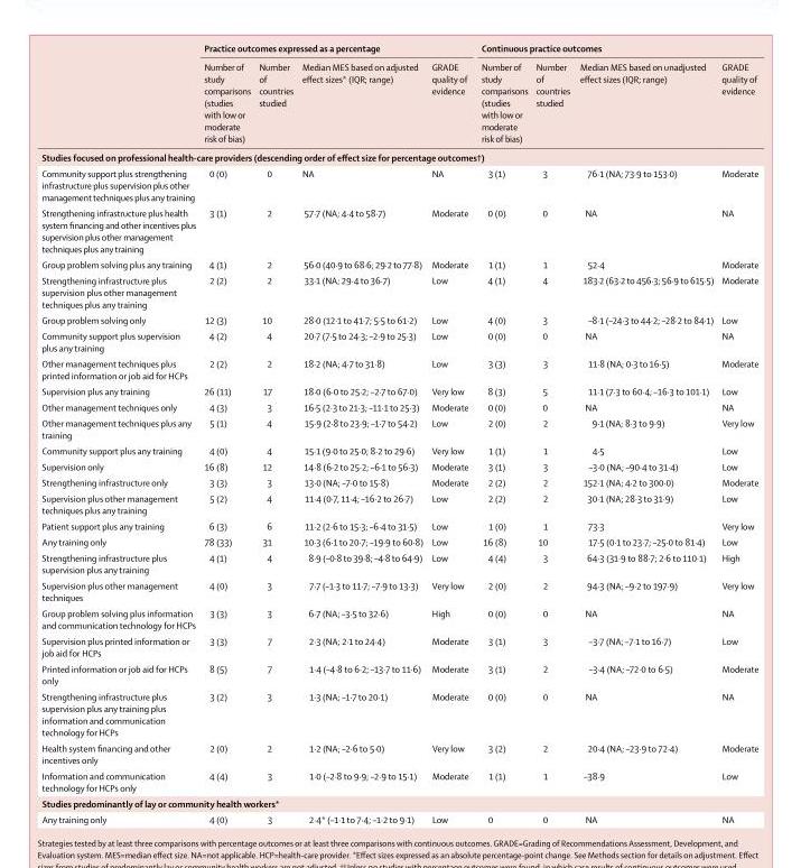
<table><thead><tr><td rowspan="2"></td><td colspan="4">Practice outcomes expressed as a percentage</td><td colspan="4">Continuous practice outcomes</td></tr><tr><td>Number of study comparisons (studies with low or moderate risk of bias)</td><td>Number of countries studied</td><td>Median MES based on adjusted effect sizes* (IQR; range)</td><td>GRADE quality of evidence</td><td>Number of study comparisons (studies with low or moderate risk of bias)</td><td>Number of countries studied</td><td>Median MES based on unadjusted effect sizes (IQR; range)</td><td>GRADE quality of evidence</td></tr></thead><tbody><tr><td colspan="9">Studies focused on professional health-care providers (descending order of effect size for percentage outcomes†)</td></tr><tr><td>Community support plus strengthening infrastructure plus supervision plus other management techniques plus any training</td><td>0 (0)</td><td>0</td><td>NA</td><td>NA</td><td>3 (1)</td><td>3</td><td>76·1 (NA; 73·9 to 153·0)</td><td>Moderate</td></tr><tr><td>Strengthening infrastructure plus health system financing and other incentives plus supervision plus other management techniques plus any training</td><td>3 (1)</td><td>2</td><td>57·7 (NA; 4·4 to 58·7)</td><td>Moderate</td><td>0 (0)</td><td>0</td><td>NA</td><td>NA</td></tr><tr><td>Group problem solving plus any training</td><td>4 (1)</td><td>2</td><td>56·0 (40·9 to 68·6; 29·2 to 77·8)</td><td>Moderate</td><td>1 (1)</td><td>1</td><td>52·4</td><td>Moderate</td></tr><tr><td>Strengthening infrastructure plus supervision plus other management techniques plus any training</td><td>2 (2)</td><td>2</td><td>33·1 (NA; 29·4 to 36·7)</td><td>Low</td><td>4 (1)</td><td>4</td><td>183·2 (63·2 to 456·3; 56·9 to 615·5)</td><td>Moderate</td></tr><tr><td>Group problem solving only</td><td>12 (3)</td><td>10</td><td>28·0 (12·1 to 41·7; 5·5 to 61·2)</td><td>Low</td><td>4 (0)</td><td>3</td><td>–8·1 (–24·3 to 44·2; –28·2 to 84·1)</td><td>Low</td></tr><tr><td>Community support plus supervision plus any training</td><td>4 (2)</td><td>4</td><td>20·7 (7·5 to 24·3; –2·9 to 25·3)</td><td>Low</td><td>0 (0)</td><td>0</td><td>NA</td><td>NA</td></tr><tr><td>Other management techniques plus printed information or job aid for HCPs</td><td>2 (2)</td><td>2</td><td>18·2 (NA; 4·7 to 31·8)</td><td>Low</td><td>3 (3)</td><td>3</td><td>11·8 (NA; 0·3 to 16·5)</td><td>Moderate</td></tr><tr><td>Supervision plus any training</td><td>26 (11)</td><td>17</td><td>18·0 (6·0 to 25·2; –2·7 to 67·0)</td><td>Very low</td><td>8 (3)</td><td>5</td><td>11·1 (7·3 to 60·4; –16·3 to 101·1)</td><td>Low</td></tr><tr><td>Other management techniques only</td><td>4 (3)</td><td>3</td><td>16·5 (2·3 to 21·3; –11·1 to 25·3)</td><td>Moderate</td><td>0 (0)</td><td>0</td><td>NA</td><td>NA</td></tr><tr><td>Other management techniques plus any training</td><td>5 (1)</td><td>4</td><td>15·9 (2·8 to 23·9; –1·7 to 54·2)</td><td>Low</td><td>2 (0)</td><td>2</td><td>9·1 (NA; 8·3 to 9·9)</td><td>Very low</td></tr><tr><td>Community support plus any training</td><td>4 (0)</td><td>4</td><td>15·1 (9·0 to 25·0; 8·2 to 29·6)</td><td>Very low</td><td>1 (1)</td><td>1</td><td>4·5</td><td>Low</td></tr><tr><td>Supervision only</td><td>16 (8)</td><td>12</td><td>14·8 (6·2 to 25·2; –6·1 to 56·3)</td><td>Moderate</td><td>3 (1)</td><td>3</td><td>–3·0 (NA; –90·4 to 31·4)</td><td>Low</td></tr><tr><td>Strengthening infrastructure only</td><td>3 (3)</td><td>3</td><td>13·0 (NA; –7·0 to 15·8)</td><td>Moderate</td><td>2 (2)</td><td>2</td><td>152·1 (NA; 4·2 to 300·0)</td><td>Moderate</td></tr><tr><td>Supervision plus other management techniques plus any training</td><td>5 (2)</td><td>4</td><td>11·4 (0·7, 11·4; –16·2 to 26·7)</td><td>Low</td><td>2 (2)</td><td>2</td><td>30·1 (NA; 28·3 to 31·9)</td><td>Low</td></tr><tr><td>Patient support plus any training</td><td>6 (3)</td><td>6</td><td>11·2 (2·6 to 15·3; –6·4 to 31·5)</td><td>Low</td><td>1 (0)</td><td>1</td><td>73·3</td><td>Very low</td></tr><tr><td>Any training only</td><td>78 (33)</td><td>31</td><td>10·3 (6·1 to 20·7; –19·9 to 60·8)</td><td>Low</td><td>16 (8)</td><td>10</td><td>17·5 (0·1 to 23·7; –25·0 to 81·4)</td><td>Low</td></tr><tr><td>Strengthening infrastructure plus supervision plus any training</td><td>4 (1)</td><td>4</td><td>8·9 (–0·8 to 39·8; –4·8 to 64·9)</td><td>Low</td><td>4 (4)</td><td>3</td><td>64·3 (31·9 to 88·7; 2·6 to 110·1)</td><td>High</td></tr><tr><td>Supervision plus other management techniques</td><td>4 (0)</td><td>3</td><td>7·7 (–1·3 to 11·7; –7·9 to 13·3)</td><td>Very low</td><td>2 (0)</td><td>2</td><td>94·3 (NA; –9·2 to 197·9)</td><td>Very low</td></tr><tr><td>Group problem solving plus information and communication technology for HCPs</td><td>3 (3)</td><td>3</td><td>6·7 (NA; –3·5 to 32·6)</td><td>High</td><td>0 (0)</td><td>0</td><td>NA</td><td>NA</td></tr><tr><td>Supervision plus printed information or job aid for HCPs</td><td>3 (3)</td><td>7</td><td>2·3 (NA; 2·1 to 24·4)</td><td>Moderate</td><td>3 (1)</td><td>3</td><td>–3·7 (NA; –7·1 to 16·7)</td><td>Low</td></tr><tr><td>Printed information or job aid for HCPs only</td><td>8 (5)</td><td>7</td><td>1·4 (–4·8 to 6·2; –13·7 to 11·6)</td><td>Moderate</td><td>3 (1)</td><td>2</td><td>–3·4 (NA; –72·0 to 6·5)</td><td>Moderate</td></tr><tr><td>Strengthening infrastructure plus supervision plus any training plus information and communication technology for HCPs</td><td>3 (2)</td><td>3</td><td>1·3 (NA; –1·7 to 20·1)</td><td>Moderate</td><td>0 (0)</td><td>0</td><td>NA</td><td>NA</td></tr><tr><td>Health system financing and other incentives only</td><td>2 (0)</td><td>2</td><td>1·2 (NA; –2·6 to 5·0)</td><td>Very low</td><td>3 (2)</td><td>2</td><td>20·4 (NA; –23·9 to 72·4)</td><td>Moderate</td></tr><tr><td>Information and communication technology for HCPs only</td><td>4 (4)</td><td>3</td><td>1·0 (–2·8 to 9·9; –2·9 to 15·1)</td><td>Moderate</td><td>1 (1)</td><td>1</td><td>–38·9</td><td>Low</td></tr><tr><td colspan="9">Studies predominantly of lay or community health workers*</td></tr><tr><td>Any training only</td><td>4 (0)</td><td>3</td><td>2·4* (–1·1 to 7·4; –1·2 to 9·1)</td><td>Low</td><td>0</td><td>0</td><td>NA</td><td>NA</td></tr></tbody></table>